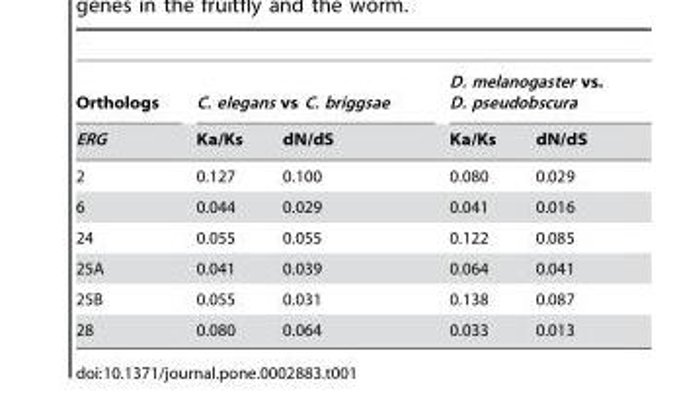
<table><thead><tr><td rowspan="2">Orthologs ERG</td><td colspan="2">C. elegans vs C. briggsae</td><td colspan="2">D. melanogaster vs. D. pseudobscura</td></tr><tr><td>Ka/Ks</td><td>dN/dS</td><td>Ka/Ks</td><td>dN/dS</td></tr></thead><tbody><tr><td>2</td><td>0.127</td><td>0.100</td><td>0.080</td><td>0.029</td></tr><tr><td>6</td><td>0.044</td><td>0.029</td><td>0.041</td><td>0.016</td></tr><tr><td>24</td><td>0.055</td><td>0.055</td><td>0.122</td><td>0.085</td></tr><tr><td>25A</td><td>0.041</td><td>0.039</td><td>0.064</td><td>0.041</td></tr><tr><td>25B</td><td>0.055</td><td>0.031</td><td>0.138</td><td>0.087</td></tr><tr><td>28</td><td>0.080</td><td>0.064</td><td>0.033</td><td>0.013</td></tr></tbody></table>